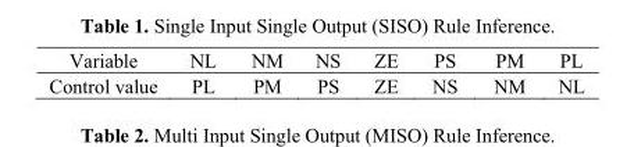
<table><tbody><tr><td>Variable</td><td>NL</td><td>NM</td><td>NS</td><td>ZE</td><td>PS</td><td>PM</td><td>PL</td></tr><tr><td>Control value</td><td>PL</td><td>PM</td><td>PS</td><td>ZE</td><td>NS</td><td>NM</td><td>NL</td></tr></tbody></table>